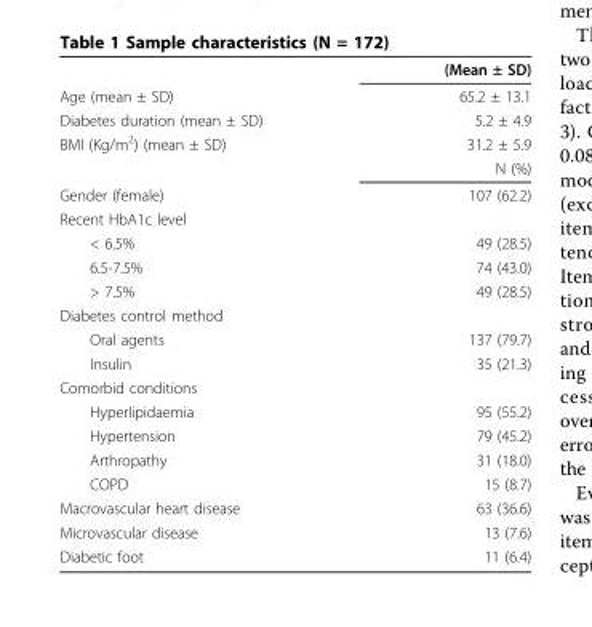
<table><thead><tr><td></td><td>(Mean ± SD)</td></tr></thead><tbody><tr><td>Age (mean ± SD)</td><td>65.2 ± 13.1</td></tr><tr><td>Diabetes duration (mean ± SD)</td><td>5.2 ± 4.9</td></tr><tr><td rowspan="2">BMI (Kg/m<sup>2</sup>) (mean ± SD)</td><td>31.2 ± 5.9</td></tr><tr><td>N (%)</td></tr><tr><td>Gender (female)</td><td>107 (62.2)</td></tr><tr><td colspan="2">Recent HbA1c level</td></tr><tr><td>&lt; 6.5%</td><td>49 (28.5)</td></tr><tr><td>6.5-7.5%</td><td>74 (43.0)</td></tr><tr><td>&gt; 7.5%</td><td>49 (28.5)</td></tr><tr><td colspan="2">Diabetes control method</td></tr><tr><td>Oral agents</td><td>137 (79.7)</td></tr><tr><td>Insulin</td><td>35 (21.3)</td></tr><tr><td colspan="2">Comorbid conditions</td></tr><tr><td>Hyperlipidaemia</td><td>95 (55.2)</td></tr><tr><td>Hypertension</td><td>79 (45.2)</td></tr><tr><td>Arthropathy</td><td>31 (18.0)</td></tr><tr><td>COPD</td><td>15 (8.7)</td></tr><tr><td>Macrovascular heart disease</td><td>63 (36.6)</td></tr><tr><td>Microvascular disease</td><td>13 (7.6)</td></tr><tr><td>Diabetic foot</td><td>11 (6.4)</td></tr></tbody></table>